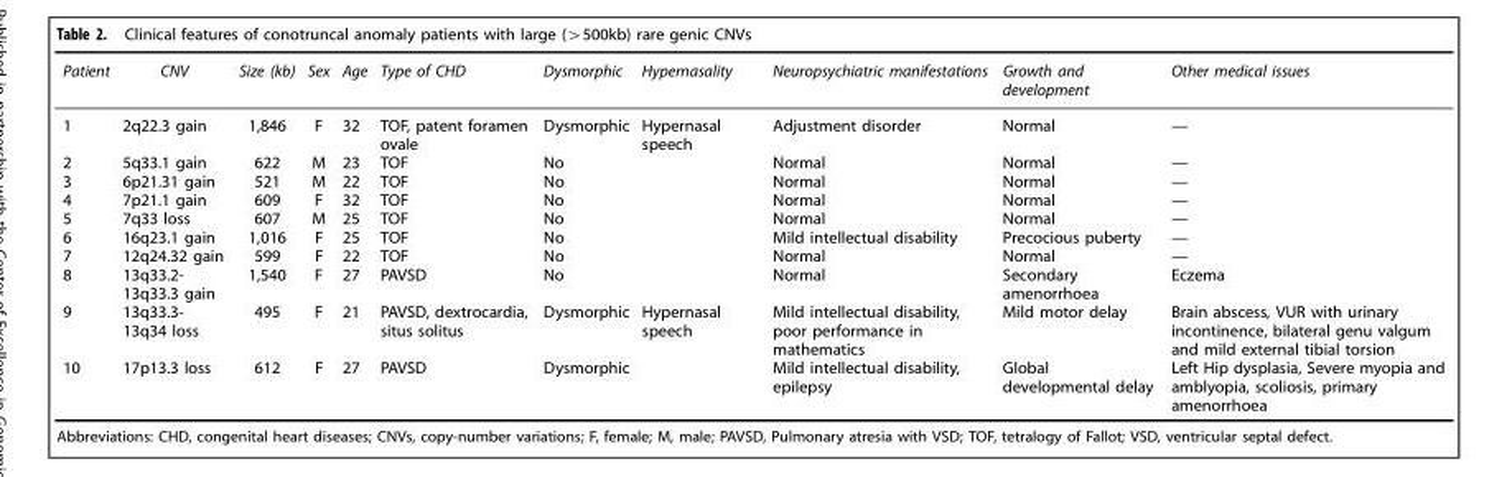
<table><thead><tr><td>Patient</td><td>CNV</td><td>Size (kb)</td><td>Sex</td><td>Age</td><td>Type of CHD</td><td>Dysmorphic</td><td>Hypernasality</td><td>Neuropsychiatric manifestations</td><td>Growth and development</td><td>Other medical issues</td></tr></thead><tbody><tr><td>1</td><td>2q22.3 gain</td><td>1,846</td><td>F</td><td>32</td><td>TOF, patent foramen ovale</td><td>Dysmorphic</td><td>Hypernasal speech</td><td>Adjustment disorder</td><td>Normal</td><td>—</td></tr><tr><td>2</td><td>5q33.1 gain</td><td>622</td><td>M</td><td>23</td><td>TOF</td><td>No</td><td></td><td>Normal</td><td>Normal</td><td>—</td></tr><tr><td>3</td><td>6p21.31 gain</td><td>521</td><td>M</td><td>22</td><td>TOF</td><td>No</td><td></td><td>Normal</td><td>Normal</td><td>—</td></tr><tr><td>4</td><td>7p21.1 gain</td><td>609</td><td>F</td><td>32</td><td>TOF</td><td>No</td><td></td><td>Normal</td><td>Normal</td><td>—</td></tr><tr><td>5</td><td>7q33 loss</td><td>607</td><td>M</td><td>25</td><td>TOF</td><td>No</td><td></td><td>Normal</td><td>Normal</td><td>—</td></tr><tr><td>6</td><td>16q23.1 gain</td><td>1,016</td><td>F</td><td>25</td><td>TOF</td><td>No</td><td></td><td>Mild intellectual disability</td><td>Precocious puberty</td><td>—</td></tr><tr><td>7</td><td>12q24.32 gain</td><td>599</td><td>F</td><td>22</td><td>TOF</td><td>No</td><td></td><td>Normal</td><td>Normal</td><td>—</td></tr><tr><td>8</td><td>13q33.2- 13q33.3 gain</td><td>1,540</td><td>F</td><td>27</td><td>PAVSD</td><td>No</td><td></td><td>Normal</td><td>Secondary amenorrhoea</td><td>Eczema</td></tr><tr><td>9</td><td>13q33.3- 13q34 loss</td><td>495</td><td>F</td><td>21</td><td>PAVSD, dextrocardia, situs solitus</td><td>Dysmorphic</td><td>Hypernasal speech</td><td>Mild intellectual disability, poor performance in mathematics</td><td>Mild motor delay</td><td>Brain abscess, VUR with urinary incontinence, bilateral genu valgum and mild external tibial torsion</td></tr><tr><td>10</td><td>17p13.3 loss</td><td>612</td><td>F</td><td>27</td><td>PAVSD</td><td>Dysmorphic</td><td></td><td>Mild intellectual disability, epilepsy</td><td>Global developmental delay</td><td>Left Hip dysplasia, Severe myopia and amblyopia, scoliosis, primary amenorrhoea</td></tr></tbody></table>